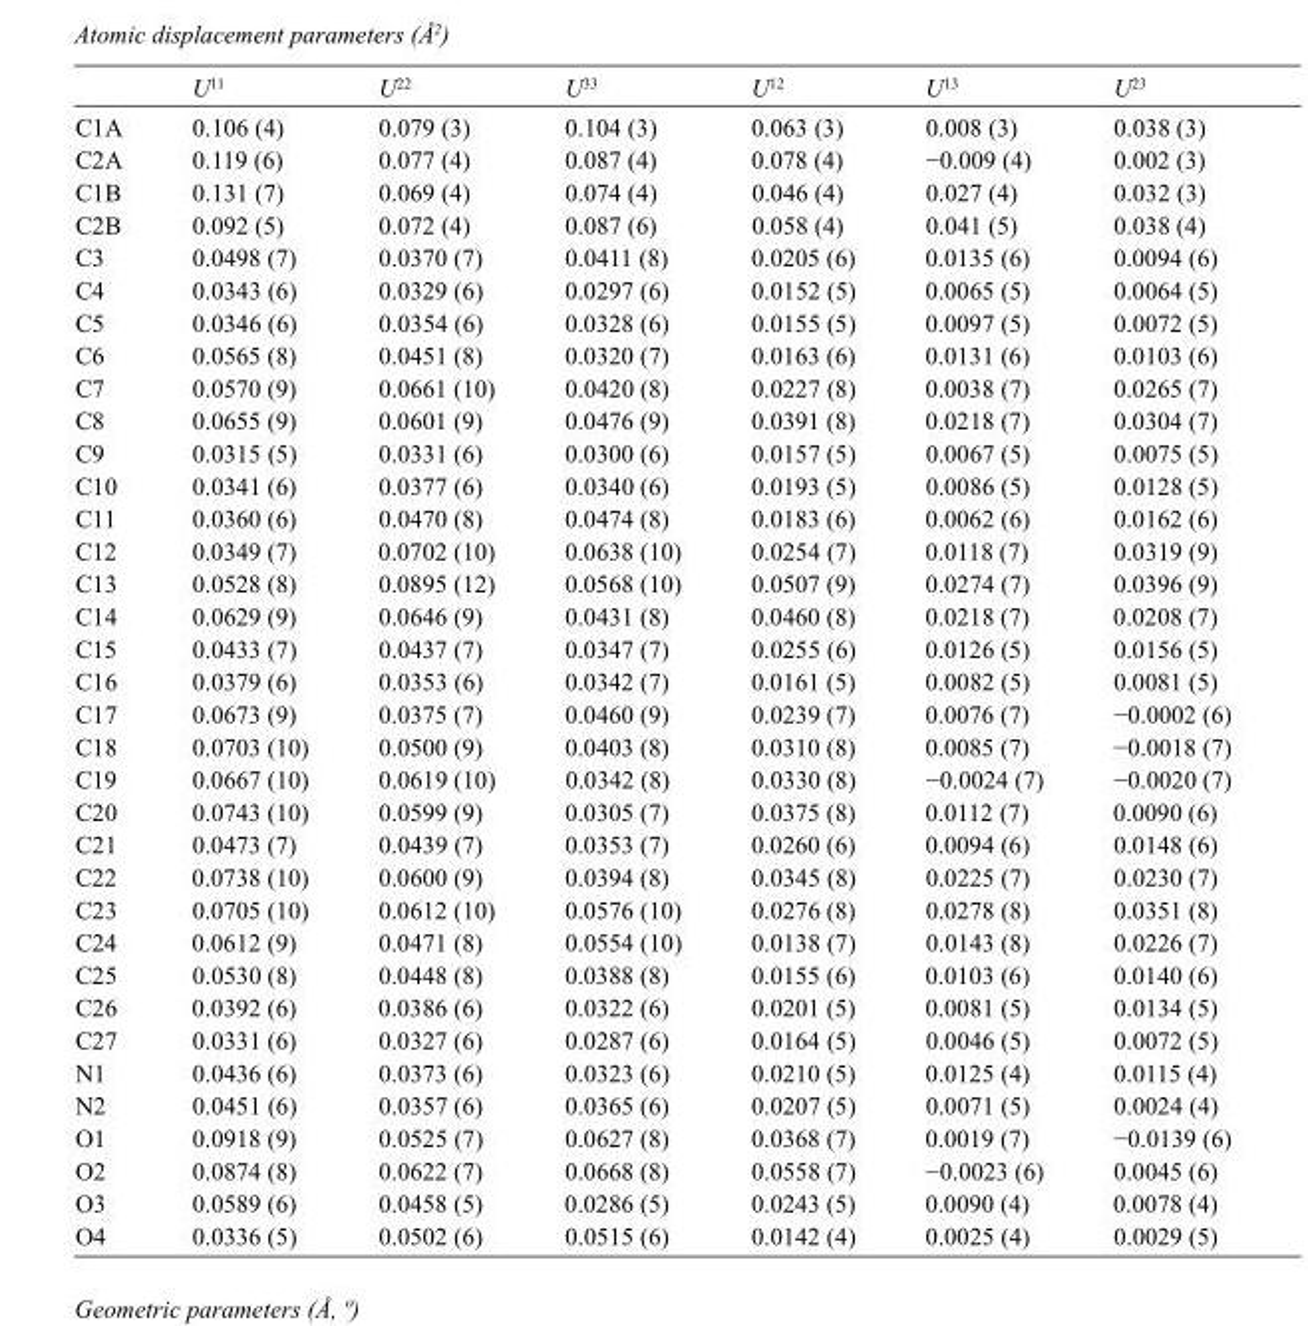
<table><thead><tr><td></td><td>U<sup>11</sup></td><td>U<sup>22</sup></td><td>U<sup>33</sup></td><td>U<sup>12</sup></td><td>U<sup>13</sup></td><td>U<sup>23</sup></td></tr></thead><tbody><tr><td>C1A</td><td>0.106 (4)</td><td>0.079 (3)</td><td>0.104 (3)</td><td>0.063 (3)</td><td>0.008 (3)</td><td>0.038 (3)</td></tr><tr><td>C2A</td><td>0.119 (6)</td><td>0.077 (4)</td><td>0.087 (4)</td><td>0.078 (4)</td><td>−0.009 (4)</td><td>0.002 (3)</td></tr><tr><td>C1B</td><td>0.131 (7)</td><td>0.069 (4)</td><td>0.074 (4)</td><td>0.046 (4)</td><td>0.027 (4)</td><td>0.032 (3)</td></tr><tr><td>C2B</td><td>0.092 (5)</td><td>0.072 (4)</td><td>0.087 (6)</td><td>0.058 (4)</td><td>0.041 (5)</td><td>0.038 (4)</td></tr><tr><td>C3</td><td>0.0498 (7)</td><td>0.0370 (7)</td><td>0.0411 (8)</td><td>0.0205 (6)</td><td>0.0135 (6)</td><td>0.0094 (6)</td></tr><tr><td>C4</td><td>0.0343 (6)</td><td>0.0329 (6)</td><td>0.0297 (6)</td><td>0.0152 (5)</td><td>0.0065 (5)</td><td>0.0064 (5)</td></tr><tr><td>C5</td><td>0.0346 (6)</td><td>0.0354 (6)</td><td>0.0328 (6)</td><td>0.0155 (5)</td><td>0.0097 (5)</td><td>0.0072 (5)</td></tr><tr><td>C6</td><td>0.0565 (8)</td><td>0.0451 (8)</td><td>0.0320 (7)</td><td>0.0163 (6)</td><td>0.0131 (6)</td><td>0.0103 (6)</td></tr><tr><td>C7</td><td>0.0570 (9)</td><td>0.0661 (10)</td><td>0.0420 (8)</td><td>0.0227 (8)</td><td>0.0038 (7)</td><td>0.0265 (7)</td></tr><tr><td>C8</td><td>0.0655 (9)</td><td>0.0601 (9)</td><td>0.0476 (9)</td><td>0.0391 (8)</td><td>0.0218 (7)</td><td>0.0304 (7)</td></tr><tr><td>C9</td><td>0.0315 (5)</td><td>0.0331 (6)</td><td>0.0300 (6)</td><td>0.0157 (5)</td><td>0.0067 (5)</td><td>0.0075 (5)</td></tr><tr><td>C10</td><td>0.0341 (6)</td><td>0.0377 (6)</td><td>0.0340 (6)</td><td>0.0193 (5)</td><td>0.0086 (5)</td><td>0.0128 (5)</td></tr><tr><td>C11</td><td>0.0360 (6)</td><td>0.0470 (8)</td><td>0.0474 (8)</td><td>0.0183 (6)</td><td>0.0062 (6)</td><td>0.0162 (6)</td></tr><tr><td>C12</td><td>0.0349 (7)</td><td>0.0702 (10)</td><td>0.0638 (10)</td><td>0.0254 (7)</td><td>0.0118 (7)</td><td>0.0319 (9)</td></tr><tr><td>C13</td><td>0.0528 (8)</td><td>0.0895 (12)</td><td>0.0568 (10)</td><td>0.0507 (9)</td><td>0.0274 (7)</td><td>0.0396 (9)</td></tr><tr><td>C14</td><td>0.0629 (9)</td><td>0.0646 (9)</td><td>0.0431 (8)</td><td>0.0460 (8)</td><td>0.0218 (7)</td><td>0.0208 (7)</td></tr><tr><td>C15</td><td>0.0433 (7)</td><td>0.0437 (7)</td><td>0.0347 (7)</td><td>0.0255 (6)</td><td>0.0126 (5)</td><td>0.0156 (5)</td></tr><tr><td>C16</td><td>0.0379 (6)</td><td>0.0353 (6)</td><td>0.0342 (7)</td><td>0.0161 (5)</td><td>0.0082 (5)</td><td>0.0081 (5)</td></tr><tr><td>C17</td><td>0.0673 (9)</td><td>0.0375 (7)</td><td>0.0460 (9)</td><td>0.0239 (7)</td><td>0.0076 (7)</td><td>−0.0002 (6)</td></tr><tr><td>C18</td><td>0.0703 (10)</td><td>0.0500 (9)</td><td>0.0403 (8)</td><td>0.0310 (8)</td><td>0.0085 (7)</td><td>−0.0018 (7)</td></tr><tr><td>C19</td><td>0.0667 (10)</td><td>0.0619 (10)</td><td>0.0342 (8)</td><td>0.0330 (8)</td><td>−0.0024 (7)</td><td>−0.0020 (7)</td></tr><tr><td>C20</td><td>0.0743 (10)</td><td>0.0599 (9)</td><td>0.0305 (7)</td><td>0.0375 (8)</td><td>0.0112 (7)</td><td>0.0090 (6)</td></tr><tr><td>C21</td><td>0.0473 (7)</td><td>0.0439 (7)</td><td>0.0353 (7)</td><td>0.0260 (6)</td><td>0.0094 (6)</td><td>0.0148 (6)</td></tr><tr><td>C22</td><td>0.0738 (10)</td><td>0.0600 (9)</td><td>0.0394 (8)</td><td>0.0345 (8)</td><td>0.0225 (7)</td><td>0.0230 (7)</td></tr><tr><td>C23</td><td>0.0705 (10)</td><td>0.0612 (10)</td><td>0.0576 (10)</td><td>0.0276 (8)</td><td>0.0278 (8)</td><td>0.0351 (8)</td></tr><tr><td>C24</td><td>0.0612 (9)</td><td>0.0471 (8)</td><td>0.0554 (10)</td><td>0.0138 (7)</td><td>0.0143 (8)</td><td>0.0226 (7)</td></tr><tr><td>C25</td><td>0.0530 (8)</td><td>0.0448 (8)</td><td>0.0388 (8)</td><td>0.0155 (6)</td><td>0.0103 (6)</td><td>0.0140 (6)</td></tr><tr><td>C26</td><td>0.0392 (6)</td><td>0.0386 (6)</td><td>0.0322 (6)</td><td>0.0201 (5)</td><td>0.0081 (5)</td><td>0.0134 (5)</td></tr><tr><td>C27</td><td>0.0331 (6)</td><td>0.0327 (6)</td><td>0.0287 (6)</td><td>0.0164 (5)</td><td>0.0046 (5)</td><td>0.0072 (5)</td></tr><tr><td>N1</td><td>0.0436 (6)</td><td>0.0373 (6)</td><td>0.0323 (6)</td><td>0.0210 (5)</td><td>0.0125 (4)</td><td>0.0115 (4)</td></tr><tr><td>N2</td><td>0.0451 (6)</td><td>0.0357 (6)</td><td>0.0365 (6)</td><td>0.0207 (5)</td><td>0.0071 (5)</td><td>0.0024 (4)</td></tr><tr><td>O1</td><td>0.0918 (9)</td><td>0.0525 (7)</td><td>0.0627 (8)</td><td>0.0368 (7)</td><td>0.0019 (7)</td><td>−0.0139 (6)</td></tr><tr><td>O2</td><td>0.0874 (8)</td><td>0.0622 (7)</td><td>0.0668 (8)</td><td>0.0558 (7)</td><td>−0.0023 (6)</td><td>0.0045 (6)</td></tr><tr><td>O3</td><td>0.0589 (6)</td><td>0.0458 (5)</td><td>0.0286 (5)</td><td>0.0243 (5)</td><td>0.0090 (4)</td><td>0.0078 (4)</td></tr><tr><td>O4</td><td>0.0336 (5)</td><td>0.0502 (6)</td><td>0.0515 (6)</td><td>0.0142 (4)</td><td>0.0025 (4)</td><td>0.0029 (5)</td></tr></tbody></table>